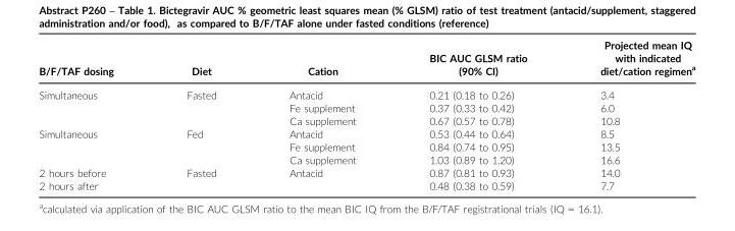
<table><thead><tr><td>B/F/TAF dosing</td><td>Diet</td><td>Cation</td><td>BIC AUC GLSM ratio (90% CI)</td><td>Projected mean IQ with indicated diet/cation regimen<sup>a</sup></td></tr></thead><tbody><tr><td rowspan="3">Simultaneous</td><td rowspan="3">Fasted</td><td>Antacid</td><td>0.21 (0.18 to 0.26)</td><td>3.4</td></tr><tr><td>Fe supplement</td><td>0.37 (0.33 to 0.42)</td><td>6.0</td></tr><tr><td>Ca supplement</td><td>0.67 (0.57 to 0.78)</td><td>10.8</td></tr><tr><td rowspan="3">Simultaneous</td><td rowspan="3">Fed</td><td>Antacid</td><td>0.53 (0.44 to 0.64)</td><td>8.5</td></tr><tr><td>Fe supplement</td><td>0.84 (0.74 to 0.95)</td><td>13.5</td></tr><tr><td>Ca supplement</td><td>1.03 (0.89 to 1.20)</td><td>16.6</td></tr><tr><td>2 hours before</td><td rowspan="2">Fasted</td><td rowspan="2">Antacid</td><td>0.87 (0.81 to 0.93)</td><td>14.0</td></tr><tr><td>2 hours after</td><td>0.48 (0.38 to 0.59)</td><td>7.7</td></tr></tbody></table>